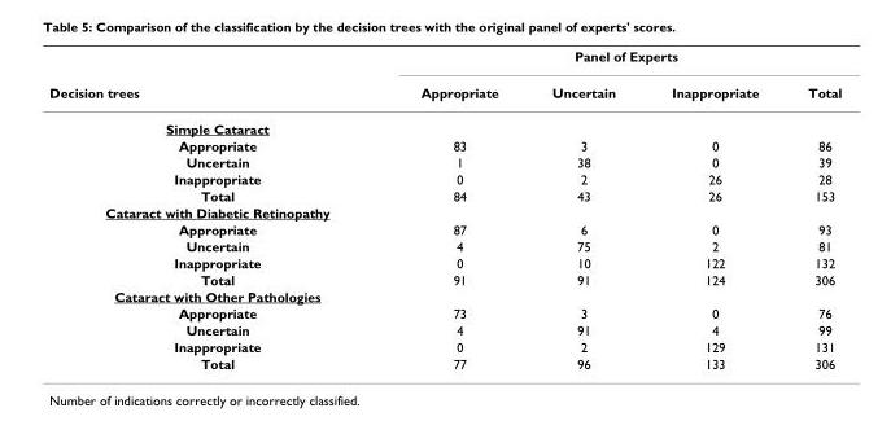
<table><thead><tr><td rowspan="2">Decision trees</td><td colspan="4">Panel of Experts</td></tr><tr><td>Appropriate</td><td>Uncertain</td><td>Inappropriate</td><td>Total</td></tr></thead><tbody><tr><td colspan="5">Simple Cataract</td></tr><tr><td>Appropriate</td><td>83</td><td>3</td><td>0</td><td>86</td></tr><tr><td>Uncertain</td><td>1</td><td>38</td><td>0</td><td>39</td></tr><tr><td>Inappropriate</td><td>0</td><td>2</td><td>26</td><td>28</td></tr><tr><td>Total</td><td>84</td><td>43</td><td>26</td><td>153</td></tr><tr><td colspan="5">Cataract with Diabetic Retinopathy</td></tr><tr><td>Appropriate</td><td>87</td><td>6</td><td>0</td><td>93</td></tr><tr><td>Uncertain</td><td>4</td><td>75</td><td>2</td><td>81</td></tr><tr><td>Inappropriate</td><td>0</td><td>10</td><td>122</td><td>132</td></tr><tr><td>Total</td><td>91</td><td>91</td><td>124</td><td>306</td></tr><tr><td colspan="5">Cataract with Other Pathologies</td></tr><tr><td>Appropriate</td><td>73</td><td>3</td><td>0</td><td>76</td></tr><tr><td>Uncertain</td><td>4</td><td>91</td><td>4</td><td>99</td></tr><tr><td>Inappropriate</td><td>0</td><td>2</td><td>129</td><td>131</td></tr><tr><td>Total</td><td>77</td><td>96</td><td>133</td><td>306</td></tr></tbody></table>